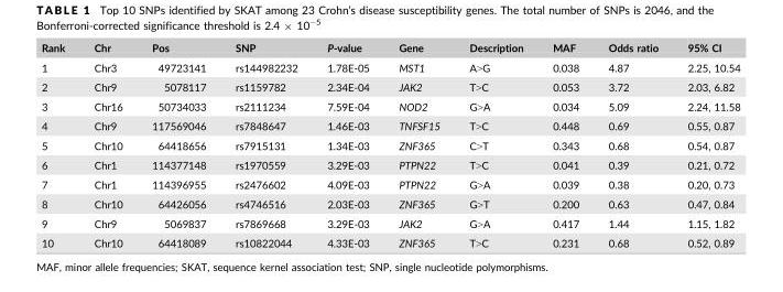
<table><thead><tr><td>Rank</td><td>Chr</td><td>Pos</td><td>SNP</td><td>P-value</td><td>Gene</td><td>Description</td><td>MAF</td><td>Odds ratio</td><td>95% CI</td></tr></thead><tbody><tr><td>1</td><td>Chr3</td><td>49723141</td><td>rs144982232</td><td>1.78E-05</td><td>MST1</td><td>A&gt;G</td><td>0.038</td><td>4.87</td><td>2.25, 10.54</td></tr><tr><td>2</td><td>Chr9</td><td>5078117</td><td>rs1159782</td><td>2.34E-04</td><td>JAK2</td><td>T&gt;C</td><td>0.053</td><td>3.72</td><td>2.03, 6.82</td></tr><tr><td>3</td><td>Chr16</td><td>50734033</td><td>rs2111234</td><td>7.59E-04</td><td>NOD2</td><td>G&gt;A</td><td>0.034</td><td>5.09</td><td>2.24, 11.58</td></tr><tr><td>4</td><td>Chr9</td><td>117569046</td><td>rs7848647</td><td>1.46E-03</td><td>TNFSF15</td><td>T&gt;C</td><td>0.448</td><td>0.69</td><td>0.55, 0.87</td></tr><tr><td>5</td><td>Chr10</td><td>64418656</td><td>rs7915131</td><td>1.34E-03</td><td>ZNF365</td><td>C&gt;T</td><td>0.343</td><td>0.68</td><td>0.54, 0.87</td></tr><tr><td>6</td><td>Chr1</td><td>114377148</td><td>rs1970559</td><td>3.29E-03</td><td>PTPN22</td><td>T&gt;C</td><td>0.041</td><td>0.39</td><td>0.21, 0.72</td></tr><tr><td>7</td><td>Chr1</td><td>114396955</td><td>rs2476602</td><td>4.09E-03</td><td>PTPN22</td><td>G&gt;A</td><td>0.039</td><td>0.38</td><td>0.20, 0.73</td></tr><tr><td>8</td><td>Chr10</td><td>64426056</td><td>rs4746516</td><td>2.03E-03</td><td>ZNF365</td><td>G&gt;T</td><td>0.200</td><td>0.63</td><td>0.47, 0.84</td></tr><tr><td>9</td><td>Chr9</td><td>5069837</td><td>rs7869668</td><td>3.29E-03</td><td>JAK2</td><td>G&gt;A</td><td>0.417</td><td>1.44</td><td>1.15, 1.82</td></tr><tr><td>10</td><td>Chr10</td><td>64418089</td><td>rs10822044</td><td>4.33E-03</td><td>ZNF365</td><td>T&gt;C</td><td>0.231</td><td>0.68</td><td>0.52, 0.89</td></tr></tbody></table>